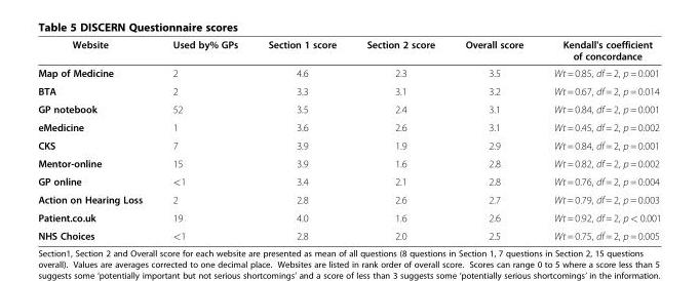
<table><thead><tr><td>Website</td><td>Used by% GPs</td><td>Section 1 score</td><td>Section 2 score</td><td>Overall score</td><td>Kendall&#x27;s coefficient of concordance</td></tr></thead><tbody><tr><td>Map of Medicine</td><td>2</td><td>4.6</td><td>2.3</td><td>3.5</td><td>Wt = 0.85, df = 2, p = 0.001</td></tr><tr><td>BTA</td><td>2</td><td>3.3</td><td>3.1</td><td>3.2</td><td>Wt = 0.67, df = 2, p = 0.014</td></tr><tr><td>GP notebook</td><td>52</td><td>3.5</td><td>2.4</td><td>3.1</td><td>Wt = 0.84, df = 2, p = 0.001</td></tr><tr><td>eMedicine</td><td>1</td><td>3.6</td><td>2.6</td><td>3.1</td><td>Wt = 0.45, df = 2, p = 0.002</td></tr><tr><td>CKS</td><td>7</td><td>3.9</td><td>1.9</td><td>2.9</td><td>Wt = 0.84, df = 2, p = 0.001</td></tr><tr><td>Mentor-online</td><td>15</td><td>3.9</td><td>1.6</td><td>2.8</td><td>Wt = 0.82, df = 2, p = 0.002</td></tr><tr><td>GP online</td><td>&lt;1</td><td>3.4</td><td>2.1</td><td>2.8</td><td>Wt = 0.76, df = 2, p = 0.004</td></tr><tr><td>Action on Hearing Loss</td><td>2</td><td>2.8</td><td>2.6</td><td>2.7</td><td>Wt = 0.79, df = 2, p = 0.003</td></tr><tr><td>Patient.co.uk</td><td>19</td><td>4.0</td><td>1.6</td><td>2.6</td><td>Wt = 0.92, df = 2, p &lt; 0.001</td></tr><tr><td>NHS Choices</td><td>&lt;1</td><td>2.8</td><td>2.0</td><td>2.5</td><td>Wt = 0.75, df = 2, p = 0.005</td></tr></tbody></table>